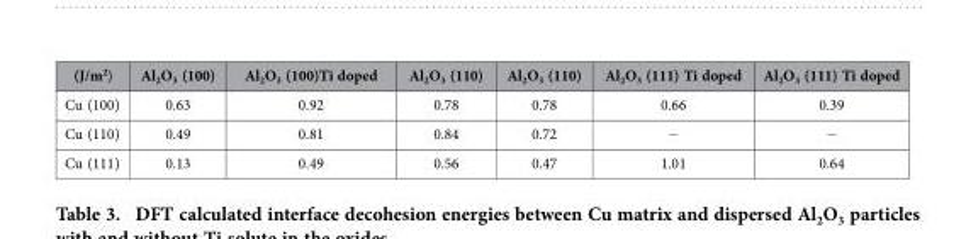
<table><thead><tr><td>(J/m<sup>2</sup>)</td><td>Al<sub>2</sub>O<sub>3</sub> (100)</td><td>Al<sub>2</sub>O<sub>3</sub> (100)Ti doped</td><td>Al<sub>2</sub>O<sub>3</sub> (110)</td><td>Al<sub>2</sub>O<sub>3</sub> (110)</td><td>Al<sub>2</sub>O<sub>3</sub> (111) Ti doped</td><td>Al<sub>2</sub>O<sub>3</sub> (111) Ti doped</td></tr></thead><tbody><tr><td>Cu (100)</td><td>0.63</td><td>0.92</td><td>0.78</td><td>0.78</td><td>0.66</td><td>0.39</td></tr><tr><td>Cu (110)</td><td>0.49</td><td>0.81</td><td>0.84</td><td>0.72</td><td>−</td><td>−</td></tr><tr><td>Cu (111)</td><td>0.13</td><td>0.49</td><td>0.56</td><td>0.47</td><td>1.01</td><td>0.64</td></tr></tbody></table>